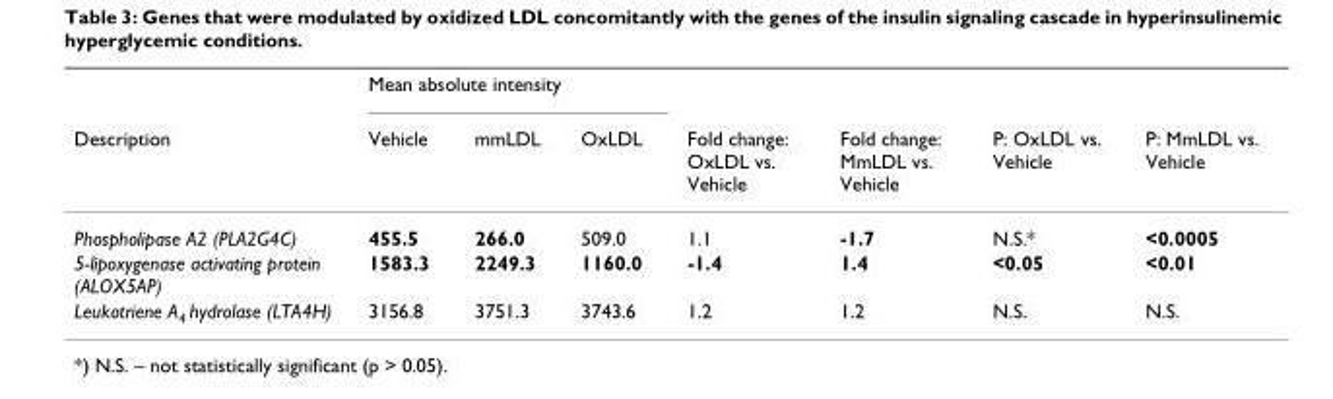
<table><thead><tr><td rowspan="2">Description</td><td colspan="3">Mean absolute intensity</td><td rowspan="2">Fold change: OxLDL vs. Vehicle</td><td rowspan="2">Fold change: MmLDL vs. Vehicle</td><td rowspan="2">P: OxLDL vs. Vehicle</td><td rowspan="2">P: MmLDL vs. Vehicle</td></tr><tr><td>Vehicle</td><td>mmLDL</td><td>OxLDL</td></tr></thead><tbody><tr><td>Phospholipase A2 (PLA2G4C)</td><td>455.5</td><td>266.0</td><td>509.0</td><td>1.1</td><td>-1.7</td><td>N.S.*</td><td>&lt;0.0005</td></tr><tr><td>5-lipoxygenase activating protein (ALOX5AP)</td><td>1583.3</td><td>2249.3</td><td>1160.0</td><td>-1.4</td><td>1.4</td><td>&lt;0.05</td><td>&lt;0.01</td></tr><tr><td>Leukotriene A<sub>4</sub> hydrolase (LTA4H)</td><td>3156.8</td><td>3751.3</td><td>3743.6</td><td>1.2</td><td>1.2</td><td>N.S.</td><td>N.S.</td></tr></tbody></table>